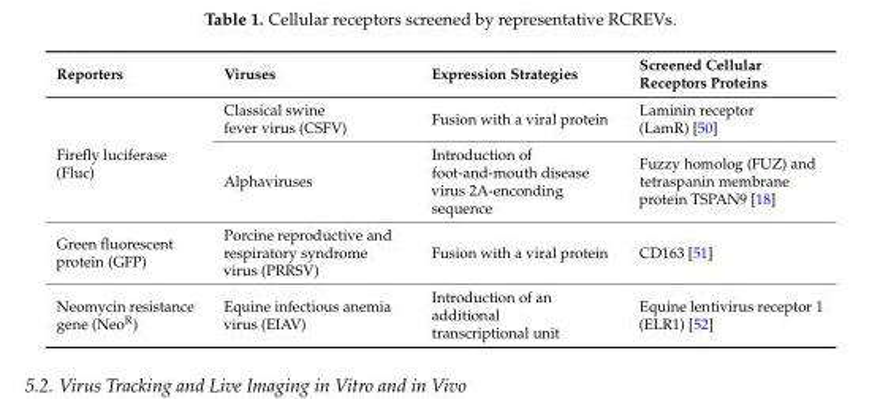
<table><thead><tr><td>Reporters</td><td>Viruses</td><td>Expression Strategies</td><td>Screened Cellular Receptors Proteins</td></tr></thead><tbody><tr><td rowspan="2">Firefly luciferase (Fluc)</td><td>Classical swine fever virus (CSFV)</td><td>Fusion with a viral protein</td><td>Laminin receptor (LamR) [50]</td></tr><tr><td>Alphaviruses</td><td>Introduction of foot-and-mouth disease virus 2A-enconding sequence</td><td>Fuzzy homolog (FUZ) and tetraspanin membrane protein TSPAN9 [18]</td></tr><tr><td>Green fluorescent protein (GFP)</td><td>Porcine reproductive and respiratory syndrome virus (PRRSV)</td><td>Fusion with a viral protein</td><td>CD163 [51]</td></tr><tr><td>Neomycin resistance gene (Neo<sup>R</sup>)</td><td>Equine infectious anemia virus (EIAV)</td><td>Introduction of an additional transcriptional unit</td><td>Equine lentivirus receptor 1 (ELR1) [52]</td></tr></tbody></table>